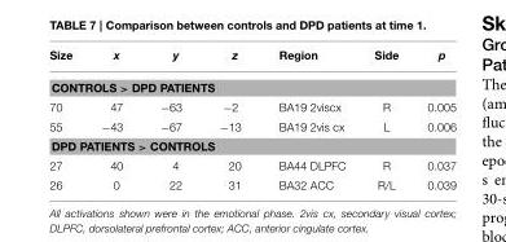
<table><thead><tr><td>Size</td><td>x</td><td>y</td><td>z</td><td>Region</td><td>Side</td><td>p</td></tr></thead><tbody><tr><td colspan="7">CONTROLS &gt; DPD PATIENTS</td></tr><tr><td>70</td><td>47</td><td>−63</td><td>−2</td><td>BA19 2viscx</td><td>R</td><td>0.005</td></tr><tr><td>55</td><td>−43</td><td>−67</td><td>−13</td><td>BA19 2vis cx</td><td>L</td><td>0.006</td></tr><tr><td colspan="7">DPD PATIENTS &gt; CONTROLS</td></tr><tr><td>27</td><td>40</td><td>4</td><td>20</td><td>BA44 DLPFC</td><td>R</td><td>0.037</td></tr><tr><td>26</td><td>0</td><td>22</td><td>31</td><td>BA32 ACC</td><td>R/L</td><td>0.039</td></tr></tbody></table>